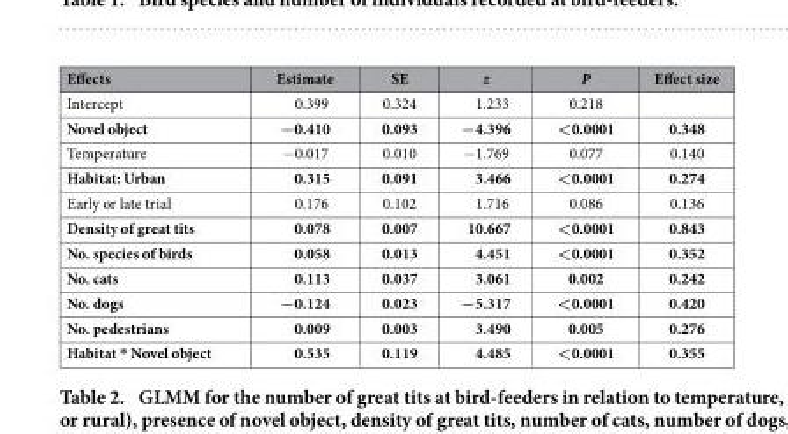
<table><thead><tr><td>Effects</td><td>Estimate</td><td>SE</td><td>z</td><td>P</td><td>Effect size</td></tr></thead><tbody><tr><td>Intercept</td><td>0.399</td><td>0.324</td><td>1.233</td><td>0.218</td><td></td></tr><tr><td>Novel object</td><td>−0.410</td><td>0.093</td><td>−4.396</td><td>&lt;0.0001</td><td>0.348</td></tr><tr><td>Temperature</td><td>− 0.017</td><td>0.010</td><td>− 1.769</td><td>0.077</td><td>0.140</td></tr><tr><td>Habitat: Urban</td><td>0.315</td><td>0.091</td><td>3.466</td><td>&lt;0.0001</td><td>0.274</td></tr><tr><td>Early or late trial</td><td>0.176</td><td>0.102</td><td>1.716</td><td>0.086</td><td>0.136</td></tr><tr><td>Density of great tits</td><td>0.078</td><td>0.007</td><td>10.667</td><td>&lt;0.0001</td><td>0.843</td></tr><tr><td>No. species of birds</td><td>0.058</td><td>0.013</td><td>4.451</td><td>&lt;0.0001</td><td>0.352</td></tr><tr><td>No. cats</td><td>0.113</td><td>0.037</td><td>3.061</td><td>0.002</td><td>0.242</td></tr><tr><td>No. dogs</td><td>−0.124</td><td>0.023</td><td>−5.317</td><td>&lt;0.0001</td><td>0.420</td></tr><tr><td>No. pedestrians</td><td>0.009</td><td>0.003</td><td>3.490</td><td>0.005</td><td>0.276</td></tr><tr><td>Habitat * Novel object</td><td>0.535</td><td>0.119</td><td>4.485</td><td>&lt;0.0001</td><td>0.355</td></tr></tbody></table>